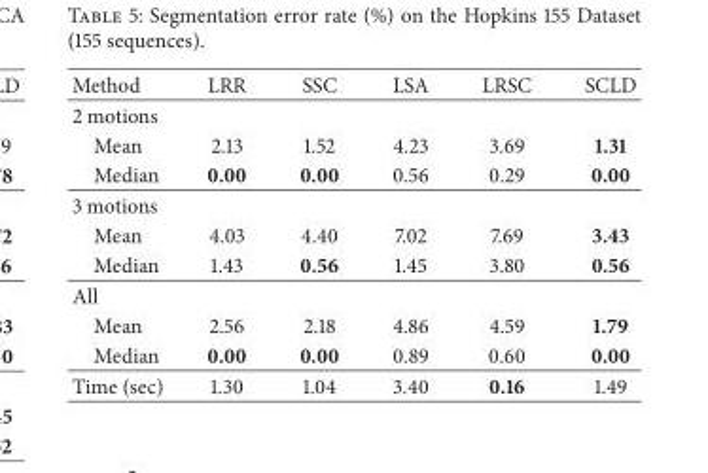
<table><thead><tr><td>Method</td><td>LRR</td><td>SSC</td><td>LSA</td><td>LRSC</td><td>SCLD</td></tr></thead><tbody><tr><td colspan="6">2 motions</td></tr><tr><td>Mean</td><td>2.13</td><td>1.52</td><td>4.23</td><td>3.69</td><td>1.31</td></tr><tr><td>Median</td><td>0.00</td><td>0.00</td><td>0.56</td><td>0.29</td><td>0.00</td></tr><tr><td colspan="6">3 motions</td></tr><tr><td>Mean</td><td>4.03</td><td>4.40</td><td>7.02</td><td>7.69</td><td>3.43</td></tr><tr><td>Median</td><td>1.43</td><td>0.56</td><td>1.45</td><td>3.80</td><td>0.56</td></tr><tr><td colspan="6">All</td></tr><tr><td>Mean</td><td>2.56</td><td>2.18</td><td>4.86</td><td>4.59</td><td>1.79</td></tr><tr><td>Median</td><td>0.00</td><td>0.00</td><td>0.89</td><td>0.60</td><td>0.00</td></tr><tr><td>Time (sec)</td><td>1.30</td><td>1.04</td><td>3.40</td><td>0.16</td><td>1.49</td></tr></tbody></table>